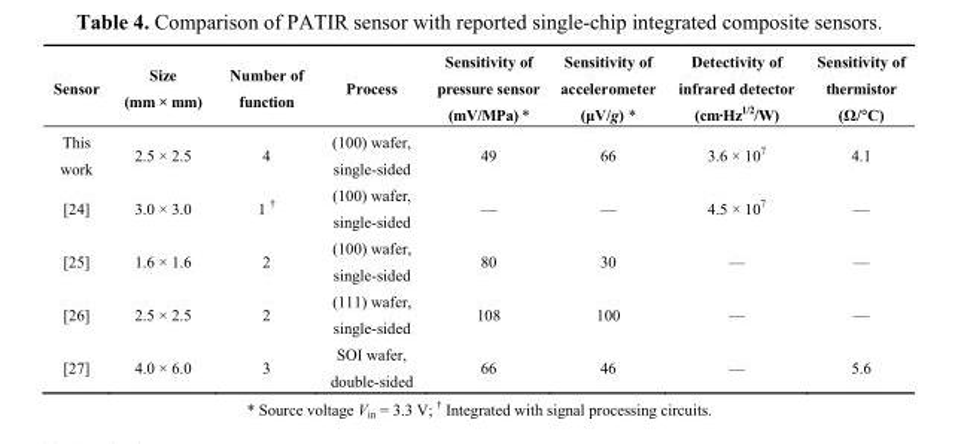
<table><thead><tr><td>Sensor</td><td>Size (mm × mm)</td><td>Number of function</td><td>Process</td><td>Sensitivity of pressure sensor (mV/MPa) *</td><td>Sensitivity of accelerometer (μV/g) *</td><td>Detectivity of infrared detector (cm·Hz<sup>1/2</sup>/W)</td><td>Sensitivity of thermistor (Ω/°C)</td></tr></thead><tbody><tr><td>This work</td><td>2.5 × 2.5</td><td>4</td><td>(100) wafer, single-sided</td><td>49</td><td>66</td><td>3.6 × 10<sup>7</sup></td><td>4.1</td></tr><tr><td>[24]</td><td>3.0 × 3.0</td><td>1 †</td><td>(100) wafer, single-sided</td><td>—</td><td>—</td><td>4.5 × 10<sup>7</sup></td><td>—</td></tr><tr><td>[25]</td><td>1.6 × 1.6</td><td>2</td><td>(100) wafer, single-sided</td><td>80</td><td>30</td><td>—</td><td>—</td></tr><tr><td>[26]</td><td>2.5 × 2.5</td><td>2</td><td>(111) wafer, single-sided</td><td>108</td><td>100</td><td>—</td><td>—</td></tr><tr><td>[27]</td><td>4.0 × 6.0</td><td>3</td><td>SOI wafer, double-sided</td><td>66</td><td>46</td><td>—</td><td>5.6</td></tr></tbody></table>